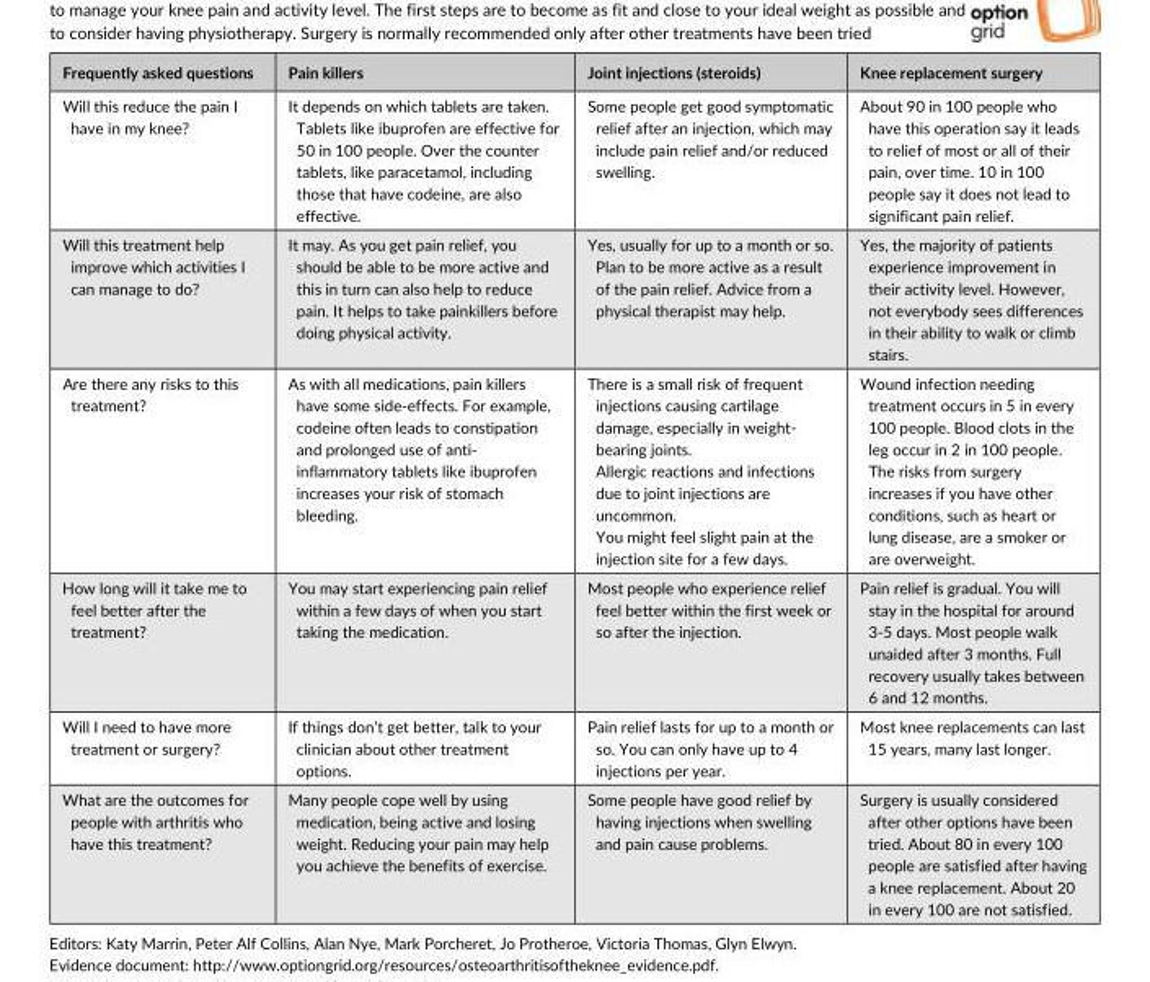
<table><thead><tr><td>Frequently asked questions</td><td>Pain killers</td><td>Joint injections (steroids)</td><td>Knee replacement surgery</td></tr></thead><tbody><tr><td>Will this reduce the pain I have in my knee?</td><td>It depends on which tablets are taken. Tablets like ibuprofen are effective for 50 in 100 people. Over the counter tablets, like paracetamol, including those that have codeine, are also effective.</td><td>Some people get good symptomatic relief after an injection, which may include pain relief and/or reduced swelling.</td><td>About 90 in 100 people who have this operation say it leads to relief of most or all of their pain, over time. 10 in 100 people say it does not lead to significant pain relief.</td></tr><tr><td>Will this treatment help improve which activities I can manage to do?</td><td>It may. As you get pain relief, you should be able to be more active and this in turn can also help to reduce pain. It helps to take painkillers before doing physical activity.</td><td>Yes, usually for up to a month or so. Plan to be more active as a result of the pain relief. Advice from a physical therapist may help.</td><td>Yes, the majority of patients experience improvement in their activity level. However, not everybody sees differences in their ability to walk or climb stairs.</td></tr><tr><td>Are there any risks to this treatment?</td><td>As with all medications, pain killers have some side- effects. For example, codeine often leads to constipation and prolonged use of anti- inflammatory tablets like ibuprofen increases your risk of stomach bleeding.</td><td>There is a small risk of frequent injections causing cartilage damage, especially in weight- bearing joints. Allergic reactions and infections due to joint injections are uncommon. You might feel slight pain at the injection site for a few days.</td><td>Wound infection needing treatment occurs in 5 in every 100 people. Blood clots in the leg occur in 2 in 100 people. The risks from surgery increases if you have other conditions, such as heart or lung disease, are a smoker or are overweight.</td></tr><tr><td>How long will it take me to feel better after the treatment?</td><td>You may start experiencing pain relief within a few days of when you start taking the medication.</td><td>Most people who experience relief feel better within the first week or so after the injection.</td><td>Pain relief is gradual. You will stay in the hospital for around 3- 5 days. Most people walk unaided after 3 months. Full recovery usually takes between 6 and 12 months.</td></tr><tr><td>Will I need to have more treatment or surgery?</td><td>If things don’t get better, talk to your clinician about other treatment options.</td><td>Pain relief lasts for up to a month or so. You can only have up to 4 injections per year.</td><td>Most knee replacements can last 15 years, many last longer.</td></tr><tr><td>What are the outcomes for people with arthritis who have this treatment?</td><td>Many people cope well by using medication, being active and losing weight. Reducing your pain may help you achieve the benefits of exercise.</td><td>Some people have good relief by having injections when swelling and pain cause problems.</td><td>Surgery is usually considered after other options have been tried. About 80 in every 100 people are satisfied after having a knee replacement. About 20 in every 100 are not satisfied.</td></tr></tbody></table>